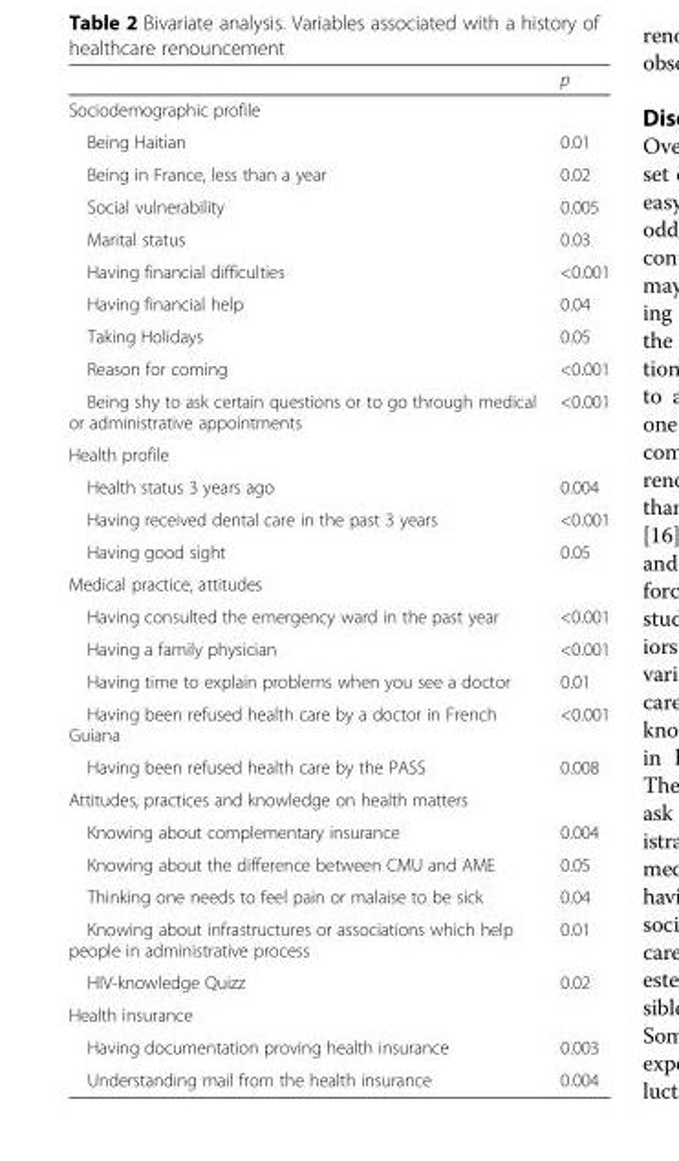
<table><thead><tr><td></td><td>p</td></tr></thead><tbody><tr><td colspan="2">Sociodemographic profile</td></tr><tr><td>Being Haitian</td><td>0.01</td></tr><tr><td>Being in France, less than a year</td><td>0.02</td></tr><tr><td>Social vulnerability</td><td>0.005</td></tr><tr><td>Marital status</td><td>0.03</td></tr><tr><td>Having financial difficulties</td><td>&lt;0.001</td></tr><tr><td>Having financial help</td><td>0.04</td></tr><tr><td>Taking Holidays</td><td>0.05</td></tr><tr><td>Reason for coming</td><td>&lt;0.001</td></tr><tr><td>Being shy to ask certain questions or to go through medical or administrative appointments</td><td>&lt;0.001</td></tr><tr><td colspan="2">Health profile</td></tr><tr><td>Health status 3 years ago</td><td>0.004</td></tr><tr><td>Having received dental care in the past 3 years</td><td>&lt;0.001</td></tr><tr><td>Having good sight</td><td>0.05</td></tr><tr><td colspan="2">Medical practice, attitudes</td></tr><tr><td>Having consulted the emergency ward in the past year</td><td>&lt;0.001</td></tr><tr><td>Having a family physician</td><td>&lt;0.001</td></tr><tr><td>Having time to explain problems when you see a doctor</td><td>0.01</td></tr><tr><td>Having been refused health care by a doctor in French Guiana</td><td>&lt;0.001</td></tr><tr><td>Having been refused health care by the PASS</td><td>0.008</td></tr><tr><td colspan="2">Attitudes, practices and knowledge on health matters</td></tr><tr><td>Knowing about complementary insurance</td><td>0.004</td></tr><tr><td>Knowing about the difference between CMU and AME</td><td>0.05</td></tr><tr><td>Thinking one needs to feel pain or malaise to be sick</td><td>0.04</td></tr><tr><td>Knowing about infrastructures or associations which help people in administrative process</td><td>0.01</td></tr><tr><td>HIV-knowledge Quizz</td><td>0.02</td></tr><tr><td colspan="2">Health insurance</td></tr><tr><td>Having documentation proving health insurance</td><td>0.003</td></tr><tr><td>Understanding mail from the health insurance</td><td>0.004</td></tr></tbody></table>